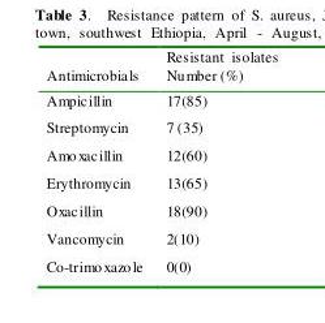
<table><thead><tr><td>Antimicrobials</td><td>Resistant isolates Number (%)</td></tr></thead><tbody><tr><td>Ampicillin</td><td>17(85)</td></tr><tr><td>Streptomycin</td><td>7 (35)</td></tr><tr><td>Amoxacillin</td><td>12(60)</td></tr><tr><td>Erythromycin</td><td>13(65)</td></tr><tr><td>Oxacillin</td><td>18(90)</td></tr><tr><td>Vancomycin</td><td>2(10)</td></tr><tr><td>Co-trimoxazole</td><td>0(0)</td></tr></tbody></table>